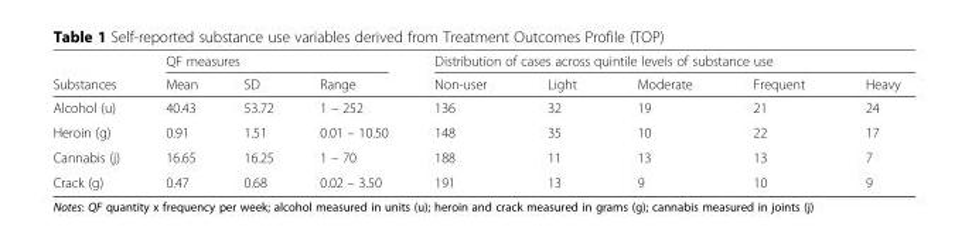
<table><thead><tr><td rowspan="2">Substances</td><td colspan="3">QF measures</td><td colspan="5">Distribution of cases across quintile levels of substance use</td></tr><tr><td>Mean</td><td>SD</td><td>Range</td><td>Non-user</td><td>Light</td><td>Moderate</td><td>Frequent</td><td>Heavy</td></tr></thead><tbody><tr><td>Alcohol (u)</td><td>40.43</td><td>53.72</td><td>1 – 252</td><td>136</td><td>32</td><td>19</td><td>21</td><td>24</td></tr><tr><td>Heroin (g)</td><td>0.91</td><td>1.51</td><td>0.01 – 10.50</td><td>148</td><td>35</td><td>10</td><td>22</td><td>17</td></tr><tr><td>Cannabis (j)</td><td>16.65</td><td>16.25</td><td>1 – 70</td><td>188</td><td>11</td><td>13</td><td>13</td><td>7</td></tr><tr><td>Crack (g)</td><td>0.47</td><td>0.68</td><td>0.02 – 3.50</td><td>191</td><td>13</td><td>9</td><td>10</td><td>9</td></tr></tbody></table>